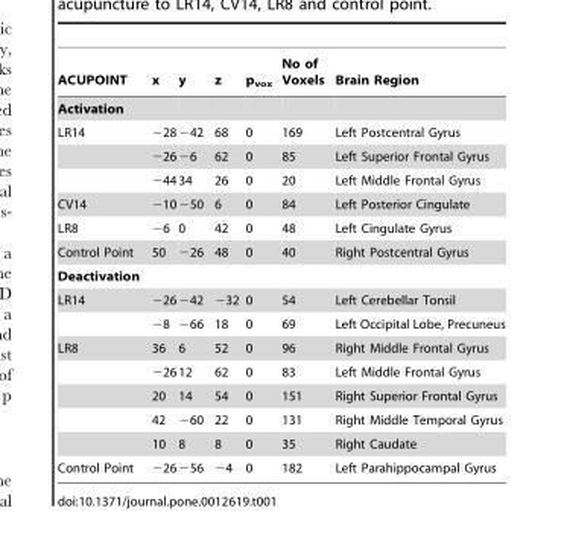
<table><thead><tr><td>ACUPOINT</td><td>x</td><td>y</td><td>z</td><td>p<sub>vox</sub></td><td>No of Voxels</td><td>Brain Region</td></tr></thead><tbody><tr><td colspan="7">Activation</td></tr><tr><td rowspan="3">LR14</td><td>−28</td><td>−42</td><td>68</td><td>0</td><td>169</td><td>Left Postcentral Gyrus</td></tr><tr><td>−26</td><td>−6</td><td>62</td><td>0</td><td>85</td><td>Left Superior Frontal Gyrus</td></tr><tr><td>−44</td><td>34</td><td>26</td><td>0</td><td>20</td><td>Left Middle Frontal Gyrus</td></tr><tr><td>CV14</td><td>−10</td><td>−50</td><td>6</td><td>0</td><td>84</td><td>Left Posterior Cingulate</td></tr><tr><td>LR8</td><td>−6</td><td>0</td><td>42</td><td>0</td><td>48</td><td>Left Cingulate Gyrus</td></tr><tr><td>Control Point</td><td>50</td><td>−26</td><td>48</td><td>0</td><td>40</td><td>Right Postcentral Gyrus</td></tr><tr><td colspan="7">Deactivation</td></tr><tr><td rowspan="2">LR14</td><td>−26</td><td>−42</td><td>−32</td><td>0</td><td>54</td><td>Left Cerebellar Tonsil</td></tr><tr><td>−8</td><td>−66</td><td>18</td><td>0</td><td>69</td><td>Left Occipital Lobe, Precuneus</td></tr><tr><td rowspan="5">LR8</td><td>36</td><td>6</td><td>52</td><td>0</td><td>96</td><td>Right Middle Frontal Gyrus</td></tr><tr><td>−26</td><td>12</td><td>62</td><td>0</td><td>83</td><td>Left Middle Frontal Gyrus</td></tr><tr><td>20</td><td>14</td><td>54</td><td>0</td><td>151</td><td>Right Superior Frontal Gyrus</td></tr><tr><td>42</td><td>−60</td><td>22</td><td>0</td><td>131</td><td>Right Middle Temporal Gyrus</td></tr><tr><td>10</td><td>8</td><td>8</td><td>0</td><td>35</td><td>Right Caudate</td></tr><tr><td>Control Point</td><td>−26</td><td>−56</td><td>−4</td><td>0</td><td>182</td><td>Left Parahippocampal Gyrus</td></tr></tbody></table>